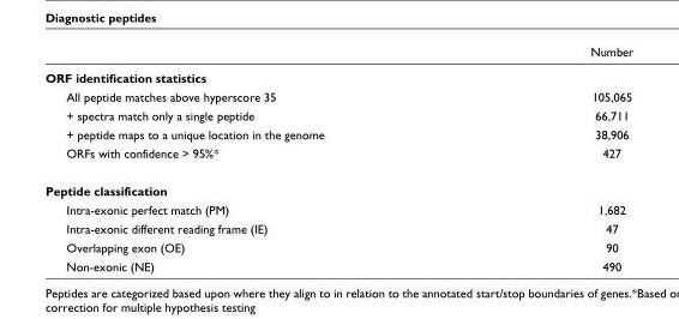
<table><thead><tr><td></td><td>Number</td></tr></thead><tbody><tr><td colspan="2">ORF identification statistics</td></tr><tr><td>All peptide matches above hyperscore 35</td><td>105,065</td></tr><tr><td>+ spectra match only a single peptide</td><td>66,711</td></tr><tr><td>+ peptide maps to a unique location in the genome</td><td>38,906</td></tr><tr><td>ORFs with confidence &gt; 95%*</td><td>427</td></tr><tr><td colspan="2">Peptide classification</td></tr><tr><td>Intra-exonic perfect match (PM)</td><td>1,682</td></tr><tr><td>Intra-exonic different reading frame (IE)</td><td>47</td></tr><tr><td>Overlapping exon (OE)</td><td>90</td></tr><tr><td>Non-exonic (NE)</td><td>490</td></tr></tbody></table>